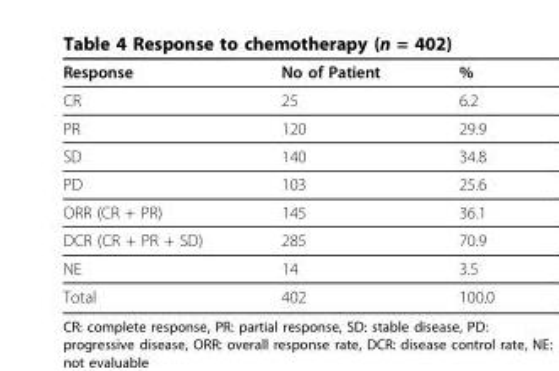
<table><thead><tr><td>Response</td><td>No of Patient</td><td>%</td></tr></thead><tbody><tr><td>CR</td><td>25</td><td>6.2</td></tr><tr><td>PR</td><td>120</td><td>29.9</td></tr><tr><td>SD</td><td>140</td><td>34.8</td></tr><tr><td>PD</td><td>103</td><td>25.6</td></tr><tr><td>ORR (CR + PR)</td><td>145</td><td>36.1</td></tr><tr><td>DCR (CR + PR + SD)</td><td>285</td><td>70.9</td></tr><tr><td>NE</td><td>14</td><td>3.5</td></tr><tr><td>Total</td><td>402</td><td>100.0</td></tr></tbody></table>